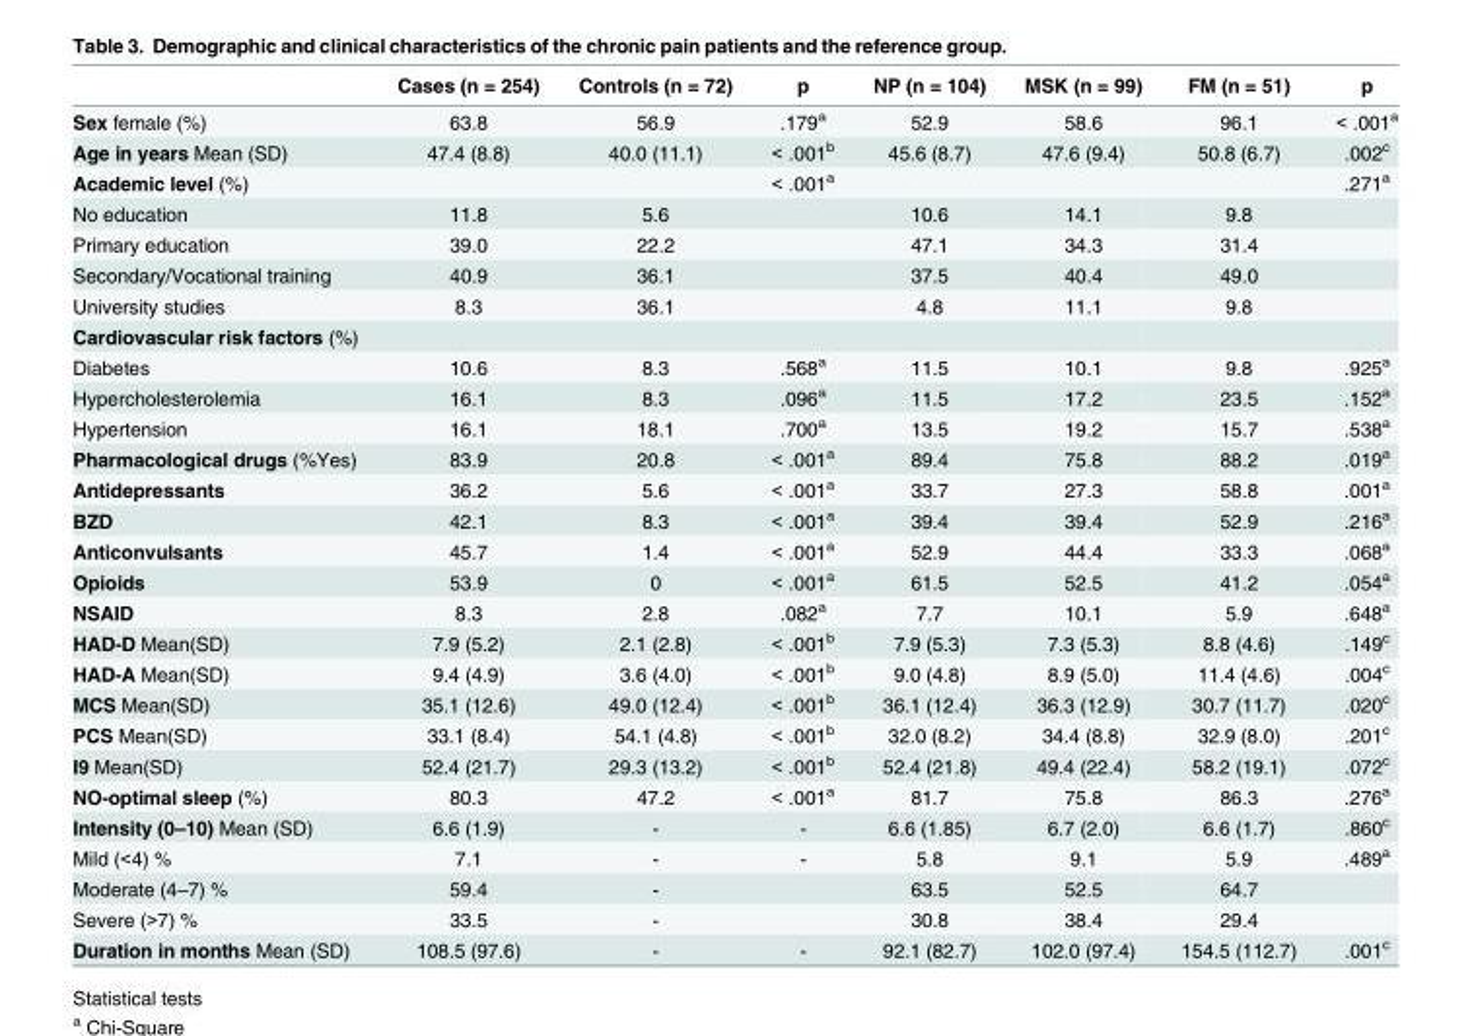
<table><thead><tr><td></td><td>Cases (n = 254)</td><td>Controls (n = 72)</td><td>p</td><td>NP (n = 104)</td><td>MSK (n = 99)</td><td>FM (n = 51)</td><td>p</td></tr></thead><tbody><tr><td>Sex female (%)</td><td>63.8</td><td>56.9</td><td>.179<sup>a</sup></td><td>52.9</td><td>58.6</td><td>96.1</td><td>&lt; .001<sup>a</sup></td></tr><tr><td>Age in years Mean (SD)</td><td>47.4 (8.8)</td><td>40.0 (11.1)</td><td>&lt; .001<sup>b</sup></td><td>45.6 (8.7)</td><td>47.6 (9.4)</td><td>50.8 (6.7)</td><td>.002<sup>c</sup></td></tr><tr><td>Academic level (%)</td><td></td><td></td><td>&lt; .001<sup>a</sup></td><td></td><td></td><td></td><td>.271<sup>a</sup></td></tr><tr><td>No education</td><td>11.8</td><td>5.6</td><td></td><td>10.6</td><td>14.1</td><td>9.8</td><td></td></tr><tr><td>Primary education</td><td>39.0</td><td>22.2</td><td></td><td>47.1</td><td>34.3</td><td>31.4</td><td></td></tr><tr><td>Secondary/Vocational training</td><td>40.9</td><td>36.1</td><td></td><td>37.5</td><td>40.4</td><td>49.0</td><td></td></tr><tr><td>University studies</td><td>8.3</td><td>36.1</td><td></td><td>4.8</td><td>11.1</td><td>9.8</td><td></td></tr><tr><td colspan="8">Cardiovascular risk factors (%)</td></tr><tr><td>Diabetes</td><td>10.6</td><td>8.3</td><td>.568<sup>a</sup></td><td>11.5</td><td>10.1</td><td>9.8</td><td>.925<sup>a</sup></td></tr><tr><td>Hypercholesterolemia</td><td>16.1</td><td>8.3</td><td>.096<sup>a</sup></td><td>11.5</td><td>17.2</td><td>23.5</td><td>.152<sup>a</sup></td></tr><tr><td>Hypertension</td><td>16.1</td><td>18.1</td><td>.700<sup>a</sup></td><td>13.5</td><td>19.2</td><td>15.7</td><td>.538<sup>a</sup></td></tr><tr><td>Pharmacological drugs (%Yes)</td><td>83.9</td><td>20.8</td><td>&lt; .001<sup>a</sup></td><td>89.4</td><td>75.8</td><td>88.2</td><td>.019<sup>a</sup></td></tr><tr><td>Antidepressants</td><td>36.2</td><td>5.6</td><td>&lt; .001<sup>a</sup></td><td>33.7</td><td>27.3</td><td>58.8</td><td>.001<sup>a</sup></td></tr><tr><td>BZD</td><td>42.1</td><td>8.3</td><td>&lt; .001<sup>a</sup></td><td>39.4</td><td>39.4</td><td>52.9</td><td>.216<sup>a</sup></td></tr><tr><td>Anticonvulsants</td><td>45.7</td><td>1.4</td><td>&lt; .001<sup>a</sup></td><td>52.9</td><td>44.4</td><td>33.3</td><td>.068<sup>a</sup></td></tr><tr><td>Opioids</td><td>53.9</td><td>0</td><td>&lt; .001<sup>a</sup></td><td>61.5</td><td>52.5</td><td>41.2</td><td>.054<sup>a</sup></td></tr><tr><td>NSAID</td><td>8.3</td><td>2.8</td><td>.082<sup>a</sup></td><td>7.7</td><td>10.1</td><td>5.9</td><td>.648<sup>a</sup></td></tr><tr><td>HAD-D Mean(SD)</td><td>7.9 (5.2)</td><td>2.1 (2.8)</td><td>&lt; .001<sup>b</sup></td><td>7.9 (5.3)</td><td>7.3 (5.3)</td><td>8.8 (4.6)</td><td>.149<sup>c</sup></td></tr><tr><td>HAD-A Mean(SD)</td><td>9.4 (4.9)</td><td>3.6 (4.0)</td><td>&lt; .001<sup>b</sup></td><td>9.0 (4.8)</td><td>8.9 (5.0)</td><td>11.4 (4.6)</td><td>.004<sup>c</sup></td></tr><tr><td>MCS Mean(SD)</td><td>35.1 (12.6)</td><td>49.0 (12.4)</td><td>&lt; .001<sup>b</sup></td><td>36.1 (12.4)</td><td>36.3 (12.9)</td><td>30.7 (11.7)</td><td>.020<sup>c</sup></td></tr><tr><td>PCS Mean(SD)</td><td>33.1 (8.4)</td><td>54.1 (4.8)</td><td>&lt; .001<sup>b</sup></td><td>32.0 (8.2)</td><td>34.4 (8.8)</td><td>32.9 (8.0)</td><td>.201<sup>c</sup></td></tr><tr><td>I9 Mean(SD)</td><td>52.4 (21.7)</td><td>29.3 (13.2)</td><td>&lt; .001<sup>b</sup></td><td>52.4 (21.8)</td><td>49.4 (22.4)</td><td>58.2 (19.1)</td><td>.072<sup>c</sup></td></tr><tr><td>NO-optimal sleep (%)</td><td>80.3</td><td>47.2</td><td>&lt; .001<sup>a</sup></td><td>81.7</td><td>75.8</td><td>86.3</td><td>.276<sup>a</sup></td></tr><tr><td>Intensity (0–10) Mean (SD)</td><td>6.6 (1.9)</td><td>-</td><td>-</td><td>6.6 (1.85)</td><td>6.7 (2.0)</td><td>6.6 (1.7)</td><td>.860<sup>c</sup></td></tr><tr><td>Mild (&lt;4) %</td><td>7.1</td><td>-</td><td>-</td><td>5.8</td><td>9.1</td><td>5.9</td><td>.489<sup>a</sup></td></tr><tr><td>Moderate (4–7) %</td><td>59.4</td><td>-</td><td></td><td>63.5</td><td>52.5</td><td>64.7</td><td></td></tr><tr><td>Severe (&gt;7) %</td><td>33.5</td><td>-</td><td></td><td>30.8</td><td>38.4</td><td>29.4</td><td></td></tr><tr><td>Duration in months Mean (SD)</td><td>108.5 (97.6)</td><td>-</td><td>-</td><td>92.1 (82.7)</td><td>102.0 (97.4)</td><td>154.5 (112.7)</td><td>.001<sup>c</sup></td></tr></tbody></table>